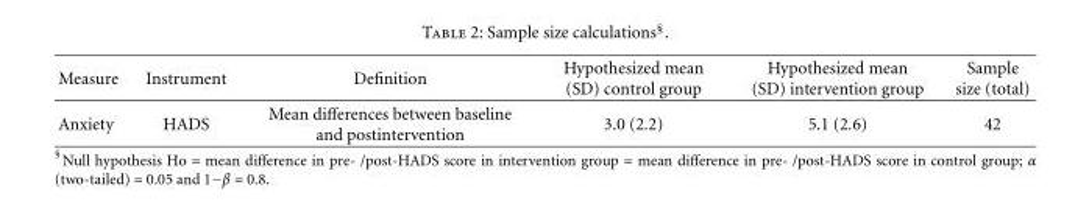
<table><thead><tr><td>Measure</td><td>Instrument</td><td>Definition</td><td>Hypothesized mean (SD) control group</td><td>Hypothesized mean (SD) intervention group</td><td>Sample size (total)</td></tr></thead><tbody><tr><td>Anxiety</td><td>HADS</td><td>Mean differences between baseline and postintervention</td><td>3.0 (2.2)</td><td>5.1 (2.6)</td><td>42</td></tr></tbody></table>